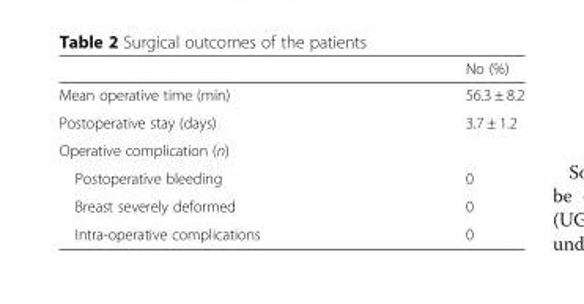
<table><thead><tr><td></td><td>No (%)</td></tr></thead><tbody><tr><td>Mean operative time (min)</td><td>56.3 ± 8.2</td></tr><tr><td>Postoperative stay (days)</td><td>3.7 ± 1.2</td></tr><tr><td colspan="2">Operative complication (n)</td></tr><tr><td>Postoperative bleeding</td><td>0</td></tr><tr><td>Breast severely deformed</td><td>0</td></tr><tr><td>Intra-operative complications</td><td>0</td></tr></tbody></table>